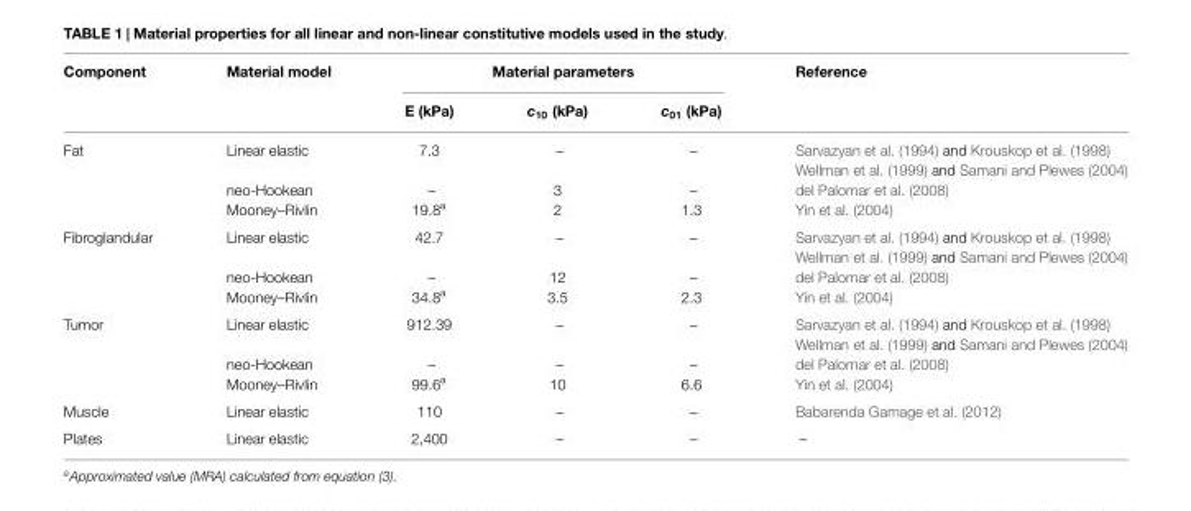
<table><thead><tr><td rowspan="2">Component</td><td rowspan="2">Material model</td><td colspan="3">Material parameters</td><td rowspan="2">Reference</td></tr><tr><td>E (kPa)</td><td>c<sub>10</sub> (kPa)</td><td>c<sub>01</sub> (kPa)</td></tr></thead><tbody><tr><td rowspan="4">Fat</td><td>Linear elastic</td><td>7.3</td><td>–</td><td>–</td><td>Sarvazyan et al. (1994) and Krouskop et al. (1998)</td></tr><tr><td></td><td></td><td></td><td></td><td>Wellman et al. (1999) and Samani and Plewes (2004)</td></tr><tr><td>neo-Hookean</td><td>–</td><td>3</td><td>–</td><td>del Palomar et al. (2008)</td></tr><tr><td>Mooney–Rivlin</td><td>19.8<sup>a</sup></td><td>2</td><td>1.3</td><td>Yin et al. (2004)</td></tr><tr><td rowspan="4">Fibroglandular</td><td>Linear elastic</td><td>42.7</td><td>–</td><td>–</td><td>Sarvazyan et al. (1994) and Krouskop et al. (1998)</td></tr><tr><td></td><td></td><td></td><td></td><td>Wellman et al. (1999) and Samani and Plewes (2004)</td></tr><tr><td>neo-Hookean</td><td>–</td><td>12</td><td>–</td><td>del Palomar et al. (2008)</td></tr><tr><td>Mooney–Rivlin</td><td>34.8<sup>a</sup></td><td>3.5</td><td>2.3</td><td>Yin et al. (2004)</td></tr><tr><td rowspan="4">Tumor</td><td>Linear elastic</td><td>912.39</td><td>–</td><td>–</td><td>Sarvazyan et al. (1994) and Krouskop et al. (1998)</td></tr><tr><td></td><td></td><td></td><td></td><td>Wellman et al. (1999) and Samani and Plewes (2004)</td></tr><tr><td>neo-Hookean</td><td>–</td><td>–</td><td>–</td><td>del Palomar et al. (2008)</td></tr><tr><td>Mooney–Rivlin</td><td>99.6<sup>a</sup></td><td>10</td><td>6.6</td><td>Yin et al. (2004)</td></tr><tr><td>Muscle</td><td>Linear elastic</td><td>110</td><td>–</td><td>–</td><td>Babarenda Gamage et al. (2012)</td></tr><tr><td>Plates</td><td>Linear elastic</td><td>2,400</td><td>–</td><td>–</td><td>–</td></tr></tbody></table>